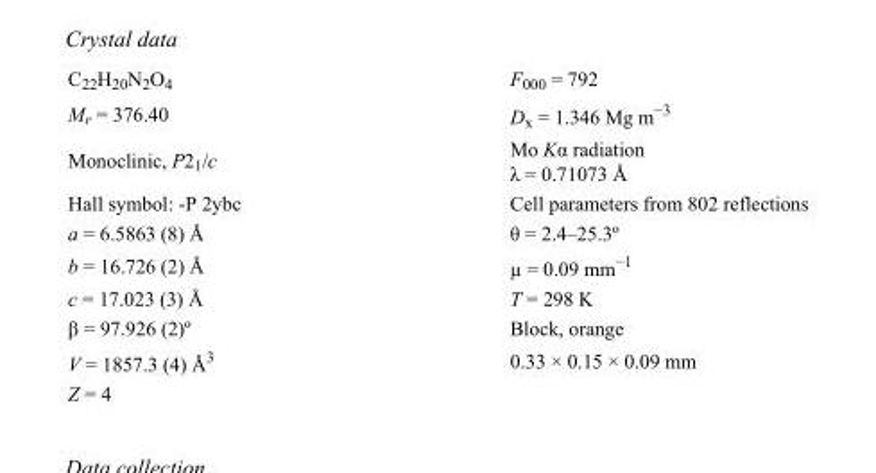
<table><tbody><tr><td>C<sub>22</sub>H<sub>20</sub>N<sub>2</sub>O<sub>4</sub></td><td>F000 = 792</td></tr><tr><td>M<sub>r</sub> = 376.40</td><td>D<sub>x</sub> = 1.346 Mg m<sup>−3</sup></td></tr><tr><td>Monoclinic, P2<sub>1</sub>/c</td><td>Mo Kα radiation λ = 0.71073 Å</td></tr><tr><td>Hall symbol: -P 2ybc</td><td>Cell parameters from 802 reflections</td></tr><tr><td>a = 6.5863 (8) Å</td><td>θ = 2.4–25.3º</td></tr><tr><td>b = 16.726 (2) Å</td><td>µ = 0.09 mm<sup>−1</sup></td></tr><tr><td>c = 17.023 (3) Å</td><td>T = 298 K</td></tr><tr><td>β = 97.926 (2)º</td><td>Block, orange</td></tr><tr><td>V = 1857.3 (4) Å<sup>3</sup></td><td>0.33 × 0.15 × 0.09 mm</td></tr><tr><td>Z = 4</td><td></td></tr></tbody></table>